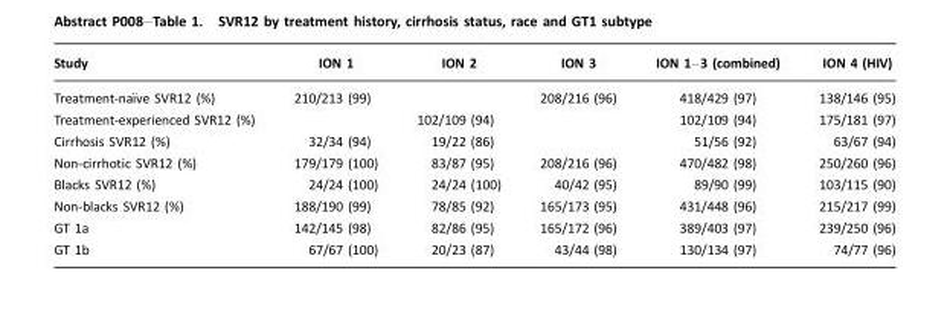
<table><thead><tr><td>Study</td><td>ION 1</td><td>ION 2</td><td>ION 3</td><td>ION 1–3 (combined)</td><td>ION 4 (HIV)</td></tr></thead><tbody><tr><td>Treatment-naı¨ve SVR12 (%)</td><td>210/213 (99)</td><td></td><td>208/216 (96)</td><td>418/429 (97)</td><td>138/146 (95)</td></tr><tr><td>Treatment-experienced SVR12 (%)</td><td></td><td>102/109 (94)</td><td></td><td>102/109 (94)</td><td>175/181 (97)</td></tr><tr><td>Cirrhosis SVR12 (%)</td><td>32/34 (94)</td><td>19/22 (86)</td><td></td><td>51/56 (92)</td><td>63/67 (94)</td></tr><tr><td>Non-cirrhotic SVR12 (%)</td><td>179/179 (100)</td><td>83/87 (95)</td><td>208/216 (96)</td><td>470/482 (98)</td><td>250/260 (96)</td></tr><tr><td>Blacks SVR12 (%)</td><td>24/24 (100)</td><td>24/24 (100)</td><td>40/42 (95)</td><td>89/90 (99)</td><td>103/115 (90)</td></tr><tr><td>Non-blacks SVR12 (%)</td><td>188/190 (99)</td><td>78/85 (92)</td><td>165/173 (95)</td><td>431/448 (96)</td><td>215/217 (99)</td></tr><tr><td>GT 1a</td><td>142/145 (98)</td><td>82/86 (95)</td><td>165/172 (96)</td><td>389/403 (97)</td><td>239/250 (96)</td></tr><tr><td>GT 1b</td><td>67/67 (100)</td><td>20/23 (87)</td><td>43/44 (98)</td><td>130/134 (97)</td><td>74/77 (96)</td></tr></tbody></table>